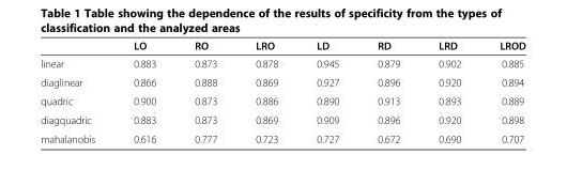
<table><thead><tr><td></td><td>LO</td><td>RO</td><td>LRO</td><td>LD</td><td>RD</td><td>LRD</td><td>LROD</td></tr></thead><tbody><tr><td>linear</td><td>0.883</td><td>0.873</td><td>0.878</td><td>0.945</td><td>0.879</td><td>0.902</td><td>0.885</td></tr><tr><td>diaglinear</td><td>0.866</td><td>0.888</td><td>0.869</td><td>0.927</td><td>0.896</td><td>0.920</td><td>0.894</td></tr><tr><td>quadric</td><td>0.900</td><td>0.873</td><td>0.886</td><td>0.890</td><td>0.913</td><td>0.893</td><td>0.889</td></tr><tr><td>diagquadric</td><td>0.883</td><td>0.873</td><td>0.869</td><td>0.909</td><td>0.896</td><td>0.920</td><td>0.898</td></tr><tr><td>mahalanobis</td><td>0.616</td><td>0.777</td><td>0.723</td><td>0.727</td><td>0.672</td><td>0.690</td><td>0.707</td></tr></tbody></table>